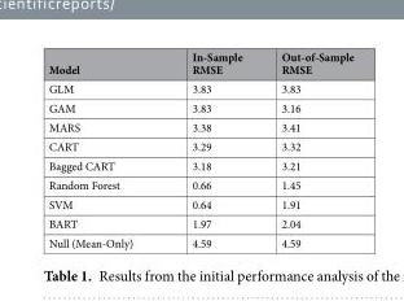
<table><thead><tr><td>Model</td><td>In-Sample RMSE</td><td>Out-of-Sample RMSE</td></tr></thead><tbody><tr><td>GLM</td><td>3.83</td><td>3.83</td></tr><tr><td>GAM</td><td>3.83</td><td>3.16</td></tr><tr><td>MARS</td><td>3.38</td><td>3.41</td></tr><tr><td>CART</td><td>3.29</td><td>3.32</td></tr><tr><td>Bagged CART</td><td>3.18</td><td>3.21</td></tr><tr><td>Random Forest</td><td>0.66</td><td>1.45</td></tr><tr><td>SVM</td><td>0.64</td><td>1.91</td></tr><tr><td>BART</td><td>1.97</td><td>2.04</td></tr><tr><td>Null (Mean-Only)</td><td>4.59</td><td>4.59</td></tr></tbody></table>